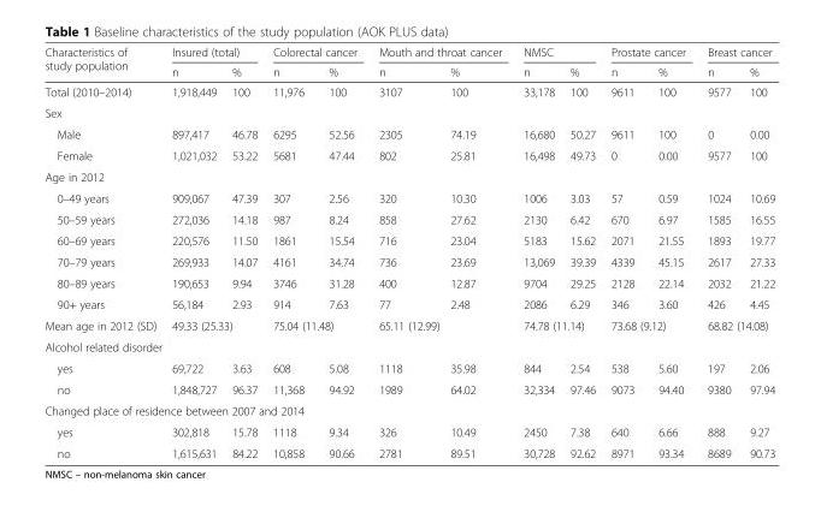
<table><thead><tr><td rowspan="2">Characteristics of study population</td><td colspan="2">Insured (total)</td><td colspan="2">Colorectal cancer</td><td colspan="2">Mouth and throat cancer</td><td colspan="2">NMSC</td><td colspan="2">Prostate cancer</td><td colspan="2">Breast cancer</td></tr><tr><td>n</td><td>%</td><td>n</td><td>%</td><td>n</td><td>%</td><td>n</td><td>%</td><td>n</td><td>%</td><td>n</td><td>%</td></tr></thead><tbody><tr><td>Total (2010–2014)</td><td>1,918,449</td><td>100</td><td>11,976</td><td>100</td><td>3107</td><td>100</td><td>33,178</td><td>100</td><td>9611</td><td>100</td><td>9577</td><td>100</td></tr><tr><td colspan="13">Sex</td></tr><tr><td>Male</td><td>897,417</td><td>46.78</td><td>6295</td><td>52.56</td><td>2305</td><td>74.19</td><td>16,680</td><td>50.27</td><td>9611</td><td>100</td><td>0</td><td>0.00</td></tr><tr><td>Female</td><td>1,021,032</td><td>53.22</td><td>5681</td><td>47.44</td><td>802</td><td>25.81</td><td>16,498</td><td>49.73</td><td>0</td><td>0.00</td><td>9577</td><td>100</td></tr><tr><td colspan="13">Age in 2012</td></tr><tr><td>0–49 years</td><td>909,067</td><td>47.39</td><td>307</td><td>2.56</td><td>320</td><td>10.30</td><td>1006</td><td>3.03</td><td>57</td><td>0.59</td><td>1024</td><td>10.69</td></tr><tr><td>50–59 years</td><td>272,036</td><td>14.18</td><td>987</td><td>8.24</td><td>858</td><td>27.62</td><td>2130</td><td>6.42</td><td>670</td><td>6.97</td><td>1585</td><td>16.55</td></tr><tr><td>60–69 years</td><td>220,576</td><td>11.50</td><td>1861</td><td>15.54</td><td>716</td><td>23.04</td><td>5183</td><td>15.62</td><td>2071</td><td>21.55</td><td>1893</td><td>19.77</td></tr><tr><td>70–79 years</td><td>269,933</td><td>14.07</td><td>4161</td><td>34.74</td><td>736</td><td>23.69</td><td>13,069</td><td>39.39</td><td>4339</td><td>45.15</td><td>2617</td><td>27.33</td></tr><tr><td>80–89 years</td><td>190,653</td><td>9.94</td><td>3746</td><td>31.28</td><td>400</td><td>12.87</td><td>9704</td><td>29.25</td><td>2128</td><td>22.14</td><td>2032</td><td>21.22</td></tr><tr><td>90+ years</td><td>56,184</td><td>2.93</td><td>914</td><td>7.63</td><td>77</td><td>2.48</td><td>2086</td><td>6.29</td><td>346</td><td>3.60</td><td>426</td><td>4.45</td></tr><tr><td>Mean age in 2012 (SD)</td><td colspan="2">49.33 (25.33)</td><td colspan="2">75.04 (11.48)</td><td colspan="2">65.11 (12.99)</td><td colspan="2">74.78 (11.14)</td><td colspan="2">73.68 (9.12)</td><td colspan="2">68.82 (14.08)</td></tr><tr><td colspan="13">Alcohol related disorder</td></tr><tr><td>yes</td><td>69,722</td><td>3.63</td><td>608</td><td>5.08</td><td>1118</td><td>35.98</td><td>844</td><td>2.54</td><td>538</td><td>5.60</td><td>197</td><td>2.06</td></tr><tr><td>no</td><td>1,848,727</td><td>96.37</td><td>11,368</td><td>94.92</td><td>1989</td><td>64.02</td><td>32,334</td><td>97.46</td><td>9073</td><td>94.40</td><td>9380</td><td>97.94</td></tr><tr><td colspan="13">Changed place of residence between 2007 and 2014</td></tr><tr><td>yes</td><td>302,818</td><td>15.78</td><td>1118</td><td>9.34</td><td>326</td><td>10.49</td><td>2450</td><td>7.38</td><td>640</td><td>6.66</td><td>888</td><td>9.27</td></tr><tr><td>no</td><td>1,615,631</td><td>84.22</td><td>10,858</td><td>90.66</td><td>2781</td><td>89.51</td><td>30,728</td><td>92.62</td><td>8971</td><td>93.34</td><td>8689</td><td>90.73</td></tr></tbody></table>